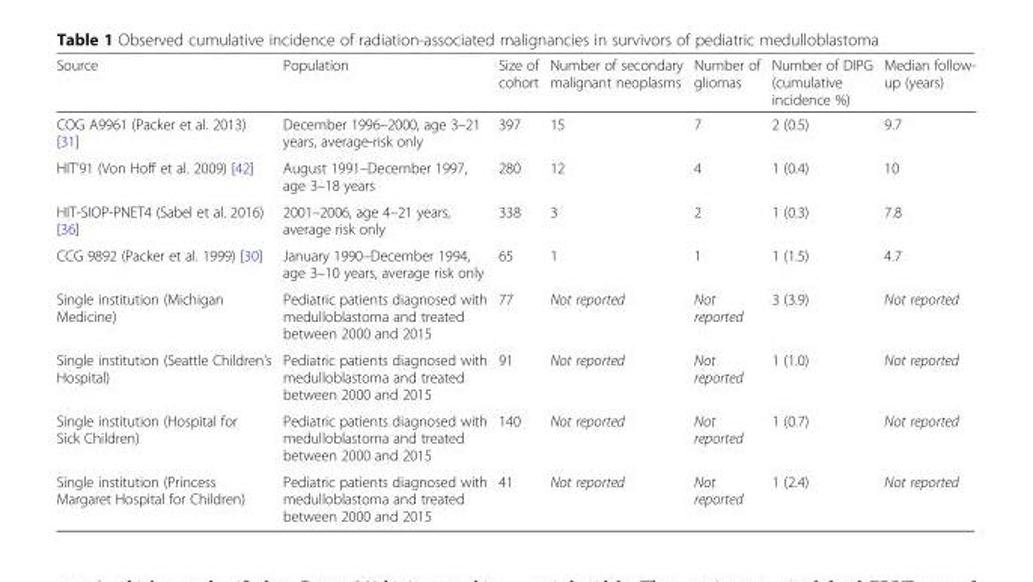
<table><thead><tr><td>Source</td><td>Population</td><td>Size of cohort</td><td>Number of secondary malignant neoplasms</td><td>Number of gliomas</td><td>Number of DIPG (cumulative incidence %)</td><td>Median follow- up (years)</td></tr></thead><tbody><tr><td>COG A9961 (Packer et al. 2013) [31]</td><td>December 1996–2000, age 3–21 years, average-risk only</td><td>397</td><td>15</td><td>7</td><td>2 (0.5)</td><td>9.7</td></tr><tr><td>HIT’91 (Von Hoff et al. 2009) [42]</td><td>August 1991–December 1997, age 3–18 years</td><td>280</td><td>12</td><td>4</td><td>1 (0.4)</td><td>10</td></tr><tr><td>HIT-SIOP-PNET4 (Sabel et al. 2016) [36]</td><td>2001–2006, age 4–21 years, average risk only</td><td>338</td><td>3</td><td>2</td><td>1 (0.3)</td><td>7.8</td></tr><tr><td>CCG 9892 (Packer et al. 1999) [30]</td><td>January 1990–December 1994, age 3–10 years, average risk only</td><td>65</td><td>1</td><td>1</td><td>1 (1.5)</td><td>4.7</td></tr><tr><td>Single institution (Michigan Medicine)</td><td>Pediatric patients diagnosed with medulloblastoma and treated between 2000 and 2015</td><td>77</td><td>Not reported</td><td>Not reported</td><td>3 (3.9)</td><td>Not reported</td></tr><tr><td>Single institution (Seattle Children’s Hospital)</td><td>Pediatric patients diagnosed with medulloblastoma and treated between 2000 and 2015</td><td>91</td><td>Not reported</td><td>Not reported</td><td>1 (1.0)</td><td>Not reported</td></tr><tr><td>Single institution (Hospital for Sick Children)</td><td>Pediatric patients diagnosed with medulloblastoma and treated between 2000 and 2015</td><td>140</td><td>Not reported</td><td>Not reported</td><td>1 (0.7)</td><td>Not reported</td></tr><tr><td>Single institution (Princess Margaret Hospital for Children)</td><td>Pediatric patients diagnosed with medulloblastoma and treated between 2000 and 2015</td><td>41</td><td>Not reported</td><td>Not reported</td><td>1 (2.4)</td><td>Not reported</td></tr></tbody></table>